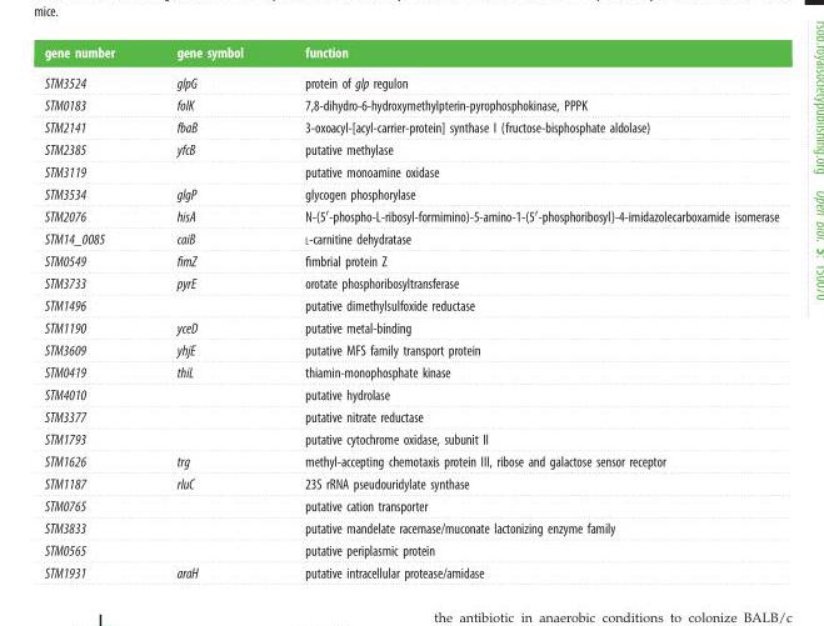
<table><thead><tr><td>gene number</td><td>gene symbol</td><td>function</td></tr></thead><tbody><tr><td>STM3524</td><td>glpG</td><td>protein of glp regulon</td></tr><tr><td>STM0183</td><td>folK</td><td>7,8-dihydro-6-hydroxymethylpterin-pyrophosphokinase, PPPK</td></tr><tr><td>STM2141</td><td>fbaB</td><td>3-oxoacyl-[acyl-carrier-protein] synthase I (fructose-bisphosphate aldolase)</td></tr><tr><td>STM2385</td><td>yfcB</td><td>putative methylase</td></tr><tr><td>STM3119</td><td></td><td>putative monoamine oxidase</td></tr><tr><td>STM3534</td><td>glgP</td><td>glycogen phosphorylase</td></tr><tr><td>STM2076</td><td>hisA</td><td>N-(5′-phospho-L-ribosyl-formimino)-5-amino-1-(5′-phosphoribosyl)-4-imidazolecarboxamide isomerase</td></tr><tr><td>STM14_0085</td><td>caiB</td><td>L-carnitine dehydratase</td></tr><tr><td>STM0549</td><td>fimZ</td><td>fimbrial protein Z</td></tr><tr><td>STM3733</td><td>pyrE</td><td>orotate phosphoribosyltransferase</td></tr><tr><td>STM1496</td><td></td><td>putative dimethylsulfoxide reductase</td></tr><tr><td>STM1190</td><td>yceD</td><td>putative metal-binding</td></tr><tr><td>STM3609</td><td>yhjE</td><td>putative MFS family transport protein</td></tr><tr><td>STM0419</td><td>thiL</td><td>thiamin-monophosphate kinase</td></tr><tr><td>STM4010</td><td></td><td>putative hydrolase</td></tr><tr><td>STM3377</td><td></td><td>putative nitrate reductase</td></tr><tr><td>STM1793</td><td></td><td>putative cytochrome oxidase, subunit II</td></tr><tr><td>STM1626</td><td>trg</td><td>methyl-accepting chemotaxis protein III, ribose and galactose sensor receptor</td></tr><tr><td>STM1187</td><td>rluC</td><td>23S rRNA pseudouridylate synthase</td></tr><tr><td>STM0765</td><td></td><td>putative cation transporter</td></tr><tr><td>STM3833</td><td></td><td>putative mandelate racemase/muconate lactonizing enzyme family</td></tr><tr><td>STM0565</td><td></td><td>putative periplasmic protein</td></tr><tr><td>STM1931</td><td>araH</td><td>putative intracellular protease/amidase</td></tr></tbody></table>